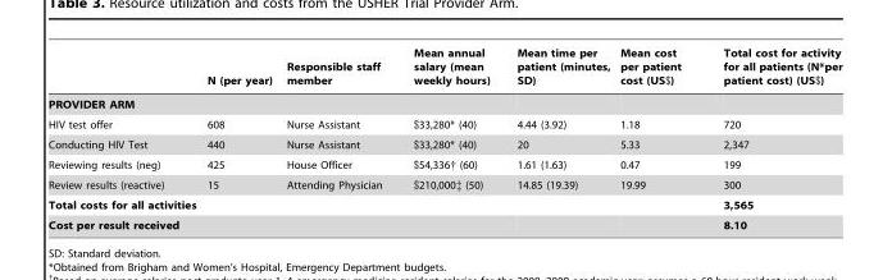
<table><thead><tr><td></td><td>N (per year)</td><td>Responsible staff member</td><td>Mean annual salary (mean weekly hours)</td><td>Mean time per patient (minutes, SD)</td><td>Mean cost per patient cost (US$)</td><td>Total cost for activity for all patients (N*per patient cost) (US$)</td></tr></thead><tbody><tr><td colspan="7">PROVIDER ARM</td></tr><tr><td>HIV test offer</td><td>608</td><td>Nurse Assistant</td><td>$33,280* (40)</td><td>4.44 (3.92)</td><td>1.18</td><td>720</td></tr><tr><td>Conducting HIV Test</td><td>440</td><td>Nurse Assistant</td><td>$33,280* (40)</td><td>20</td><td>5.33</td><td>2,347</td></tr><tr><td>Reviewing results (neg)</td><td>425</td><td>House Officer</td><td>$54,336† (60)</td><td>1.61 (1.63)</td><td>0.47</td><td>199</td></tr><tr><td>Review results (reactive)</td><td>15</td><td>Attending Physician</td><td>$210,000‡ (50)</td><td>14.85 (19.39)</td><td>19.99</td><td>300</td></tr><tr><td colspan="2">Total costs for all activities</td><td></td><td></td><td></td><td></td><td>3,565</td></tr><tr><td colspan="2">Cost per result received</td><td></td><td></td><td></td><td></td><td>8.10</td></tr></tbody></table>